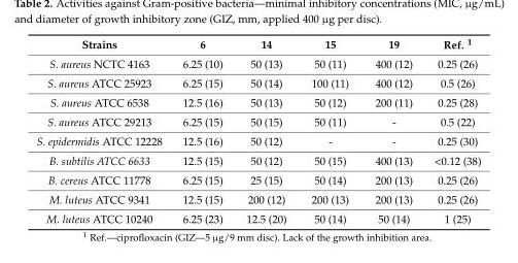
<table><thead><tr><td>Strains</td><td>6</td><td>14</td><td>15</td><td>19</td><td>Ref. 1</td></tr></thead><tbody><tr><td>S. aureus NCTC 4163</td><td>6.25 (10)</td><td>50 (13)</td><td>50 (11)</td><td>400 (12)</td><td>0.25 (26)</td></tr><tr><td>S. aureus ATCC 25923</td><td>6.25 (15)</td><td>50 (14)</td><td>100 (11)</td><td>400 (12)</td><td>0.5 (26)</td></tr><tr><td>S. aureus ATCC 6538</td><td>12.5 (16)</td><td>50 (13)</td><td>50 (12)</td><td>200 (11)</td><td>0.25 (28)</td></tr><tr><td>S. aureus ATCC 29213</td><td>6.25 (15)</td><td>50 (15)</td><td>50 (11)</td><td>-</td><td>0.5 (22)</td></tr><tr><td>S. epidermidis ATCC 12228</td><td>12.5 (16)</td><td>50 (12)</td><td>-</td><td>-</td><td>0.25 (30)</td></tr><tr><td>B. subtilis ATCC 6633</td><td>12.5 (15)</td><td>50 (12)</td><td>50 (15)</td><td>400 (13)</td><td>&lt;0.12 (38)</td></tr><tr><td>B. cereus ATCC 11778</td><td>6.25 (15)</td><td>25 (15)</td><td>50 (14)</td><td>200 (13)</td><td>0.25 (26)</td></tr><tr><td>M. luteus ATCC 9341</td><td>12.5 (15)</td><td>200 (12)</td><td>200 (13)</td><td>200 (13)</td><td>0.25 (26)</td></tr><tr><td>M. luteus ATCC 10240</td><td>6.25 (23)</td><td>12.5 (20)</td><td>50 (14)</td><td>50 (14)</td><td>1 (25)</td></tr></tbody></table>